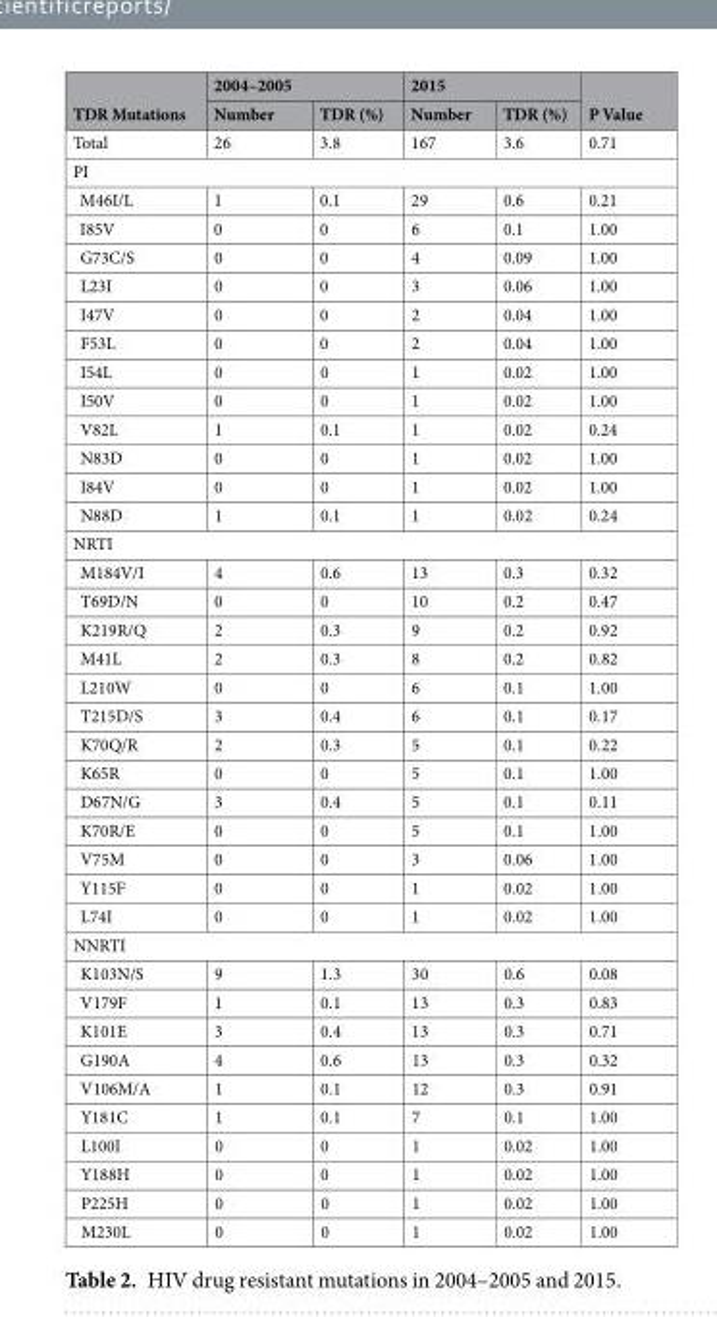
<table><thead><tr><td rowspan="2">TDR Mutations</td><td colspan="2">2004–2005</td><td colspan="2">2015</td><td rowspan="2">P Value</td></tr><tr><td>Number</td><td>TDR (%)</td><td>Number</td><td>TDR (%)</td></tr></thead><tbody><tr><td>Total</td><td>26</td><td>3.8</td><td>167</td><td>3.6</td><td>0.71</td></tr><tr><td colspan="6">PI</td></tr><tr><td>M46I/L</td><td>1</td><td>0.1</td><td>29</td><td>0.6</td><td>0.21</td></tr><tr><td>I85V</td><td>0</td><td>0</td><td>6</td><td>0.1</td><td>1.00</td></tr><tr><td>G73C/S</td><td>0</td><td>0</td><td>4</td><td>0.09</td><td>1.00</td></tr><tr><td>L23I</td><td>0</td><td>0</td><td>3</td><td>0.06</td><td>1.00</td></tr><tr><td>I47V</td><td>0</td><td>0</td><td>2</td><td>0.04</td><td>1.00</td></tr><tr><td>F53L</td><td>0</td><td>0</td><td>2</td><td>0.04</td><td>1.00</td></tr><tr><td>I54L</td><td>0</td><td>0</td><td>1</td><td>0.02</td><td>1.00</td></tr><tr><td>I50V</td><td>0</td><td>0</td><td>1</td><td>0.02</td><td>1.00</td></tr><tr><td>V82L</td><td>1</td><td>0.1</td><td>1</td><td>0.02</td><td>0.24</td></tr><tr><td>N83D</td><td>0</td><td>0</td><td>1</td><td>0.02</td><td>1.00</td></tr><tr><td>I84V</td><td>0</td><td>0</td><td>1</td><td>0.02</td><td>1.00</td></tr><tr><td>N88D</td><td>1</td><td>0.1</td><td>1</td><td>0.02</td><td>0.24</td></tr><tr><td colspan="6">NRTI</td></tr><tr><td>M184V/I</td><td>4</td><td>0.6</td><td>13</td><td>0.3</td><td>0.32</td></tr><tr><td>T69D/N</td><td>0</td><td>0</td><td>10</td><td>0.2</td><td>0.47</td></tr><tr><td>K219R/Q</td><td>2</td><td>0.3</td><td>9</td><td>0.2</td><td>0.92</td></tr><tr><td>M41L</td><td>2</td><td>0.3</td><td>8</td><td>0.2</td><td>0.82</td></tr><tr><td>L210W</td><td>0</td><td>0</td><td>6</td><td>0.1</td><td>1.00</td></tr><tr><td>T215D/S</td><td>3</td><td>0.4</td><td>6</td><td>0.1</td><td>0.17</td></tr><tr><td>K70Q/R</td><td>2</td><td>0.3</td><td>5</td><td>0.1</td><td>0.22</td></tr><tr><td>K65R</td><td>0</td><td>0</td><td>5</td><td>0.1</td><td>1.00</td></tr><tr><td>D67N/G</td><td>3</td><td>0.4</td><td>5</td><td>0.1</td><td>0.11</td></tr><tr><td>K70R/E</td><td>0</td><td>0</td><td>5</td><td>0.1</td><td>1.00</td></tr><tr><td>V75M</td><td>0</td><td>0</td><td>3</td><td>0.06</td><td>1.00</td></tr><tr><td>Y115F</td><td>0</td><td>0</td><td>1</td><td>0.02</td><td>1.00</td></tr><tr><td>L74I</td><td>0</td><td>0</td><td>1</td><td>0.02</td><td>1.00</td></tr><tr><td colspan="6">NNRTI</td></tr><tr><td>K103N/S</td><td>9</td><td>1.3</td><td>30</td><td>0.6</td><td>0.08</td></tr><tr><td>V179F</td><td>1</td><td>0.1</td><td>13</td><td>0.3</td><td>0.83</td></tr><tr><td>K101E</td><td>3</td><td>0.4</td><td>13</td><td>0.3</td><td>0.71</td></tr><tr><td>G190A</td><td>4</td><td>0.6</td><td>13</td><td>0.3</td><td>0.32</td></tr><tr><td>V106M/A</td><td>1</td><td>0.1</td><td>12</td><td>0.3</td><td>0.91</td></tr><tr><td>Y181C</td><td>1</td><td>0.1</td><td>7</td><td>0.1</td><td>1.00</td></tr><tr><td>L100I</td><td>0</td><td>0</td><td>1</td><td>0.02</td><td>1.00</td></tr><tr><td>Y188H</td><td>0</td><td>0</td><td>1</td><td>0.02</td><td>1.00</td></tr><tr><td>P225H</td><td>0</td><td>0</td><td>1</td><td>0.02</td><td>1.00</td></tr><tr><td>M230L</td><td>0</td><td>0</td><td>1</td><td>0.02</td><td>1.00</td></tr></tbody></table>